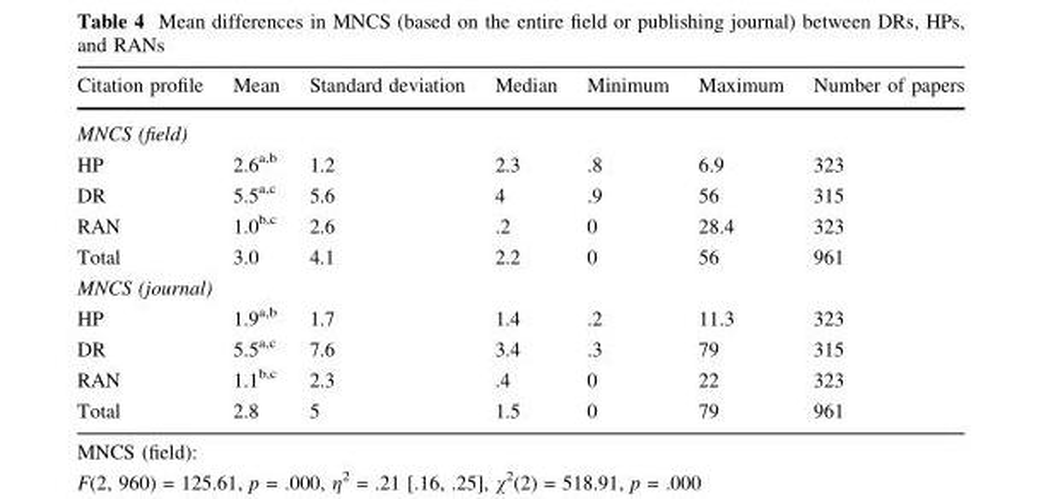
<table><thead><tr><td>Citation profile</td><td>Mean</td><td>Standard deviation</td><td>Median</td><td>Minimum</td><td>Maximum</td><td>Number of papers</td></tr></thead><tbody><tr><td colspan="7">MNCS (field)</td></tr><tr><td>HP</td><td>2.6<sup>a,b</sup></td><td>1.2</td><td>2.3</td><td>.8</td><td>6.9</td><td>323</td></tr><tr><td>DR</td><td>5.5<sup>a,c</sup></td><td>5.6</td><td>4</td><td>.9</td><td>56</td><td>315</td></tr><tr><td>RAN</td><td>1.0<sup>b,c</sup></td><td>2.6</td><td>.2</td><td>0</td><td>28.4</td><td>323</td></tr><tr><td>Total</td><td>3.0</td><td>4.1</td><td>2.2</td><td>0</td><td>56</td><td>961</td></tr><tr><td colspan="7">MNCS (journal)</td></tr><tr><td>HP</td><td>1.9<sup>a,b</sup></td><td>1.7</td><td>1.4</td><td>.2</td><td>11.3</td><td>323</td></tr><tr><td>DR</td><td>5.5<sup>a,c</sup></td><td>7.6</td><td>3.4</td><td>.3</td><td>79</td><td>315</td></tr><tr><td>RAN</td><td>1.1<sup>b,c</sup></td><td>2.3</td><td>.4</td><td>0</td><td>22</td><td>323</td></tr><tr><td>Total</td><td>2.8</td><td>5</td><td>1.5</td><td>0</td><td>79</td><td>961</td></tr></tbody></table>